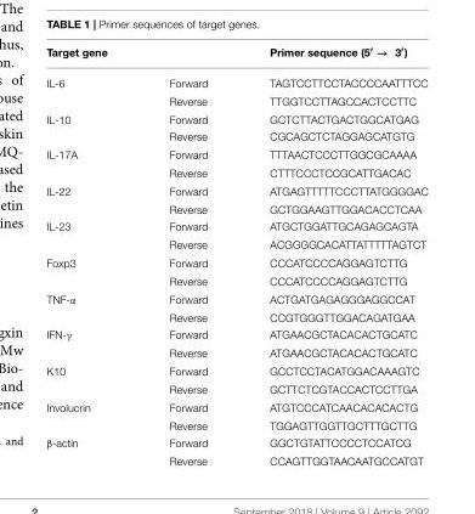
<table><thead><tr><td>Target gene</td><td></td><td>Primer sequence (5′ → 3′)</td></tr></thead><tbody><tr><td rowspan="2">IL-6</td><td>Forward</td><td>TAGTCCTTCCTACCCCAATTTCC</td></tr><tr><td>Reverse</td><td>TTGGTCCTTAGCCACTCCTTC</td></tr><tr><td rowspan="2">IL-10</td><td>Forward</td><td>GCTCTTACTGACTGGCATGAG</td></tr><tr><td>Reverse</td><td>CGCAGCTCTAGGAGCATGTG</td></tr><tr><td rowspan="2">IL-17A</td><td>Forward</td><td>TTTAACTCCCTTGGCGCAAAA</td></tr><tr><td>Reverse</td><td>CTTTCCCTCCGCATTGACAC</td></tr><tr><td rowspan="2">IL-22</td><td>Forward</td><td>ATGAGTTTTTCCCTTATGGGGAC</td></tr><tr><td>Reverse</td><td>GCTGGAAGTTGGACACCTCAA</td></tr><tr><td rowspan="2">IL-23</td><td>Forward</td><td>ATGCTGGATTGCAGAGCAGTA</td></tr><tr><td>Reverse</td><td>ACGGGGCACATTATTTTTAGTCT</td></tr><tr><td rowspan="2">Foxp3</td><td>Forward</td><td>CCCATCCCCAGGAGTCTTG</td></tr><tr><td>Reverse</td><td>CCCATCCCCAGGAGTCTTG</td></tr><tr><td rowspan="2">TNF-α</td><td>Forward</td><td>ACTGATGAGAGGGAGGCCAT</td></tr><tr><td>Reverse</td><td>CCGTGGGTTGGACAGATGAA</td></tr><tr><td rowspan="2">IFN-γ</td><td>Forward</td><td>ATGAACGCTACACACTGCATC</td></tr><tr><td>Reverse</td><td>ATGAACGCTACACACTGCATC</td></tr><tr><td rowspan="2">K10</td><td>Forward</td><td>GCCTCCTACATGGACAAAGTC</td></tr><tr><td>Reverse</td><td>GCTTCTCGTACCACTCCTTGA</td></tr><tr><td rowspan="2">Involucrin</td><td>Forward</td><td>ATGTCCCATCAACACACACTG</td></tr><tr><td>Reverse</td><td>TGGAGTTGGTTGCTTTGCTTG</td></tr><tr><td rowspan="2">β-actin</td><td>Forward</td><td>GGCTGTATTCCCCTCCATCG</td></tr><tr><td>Reverse</td><td>CCAGTTGGTAACAATGCCATGT</td></tr></tbody></table>